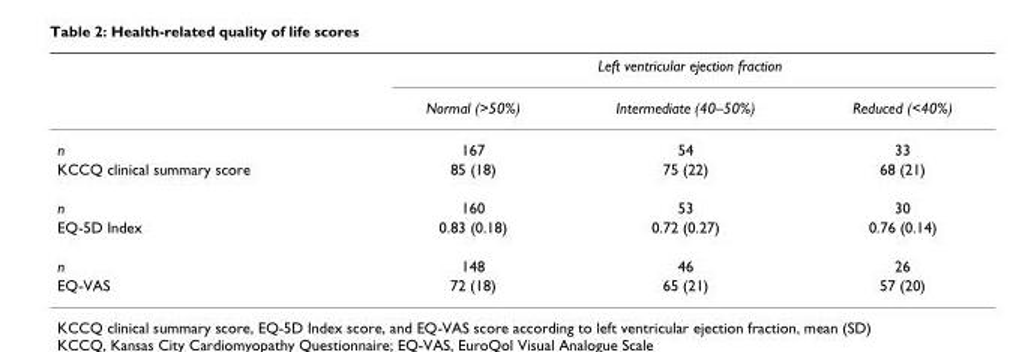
<table><thead><tr><td rowspan="2"></td><td colspan="3">Left ventricular ejection fraction</td></tr><tr><td>Normal (&gt;50%)</td><td>Intermediate (40–50%)</td><td>Reduced (&lt;40%)</td></tr></thead><tbody><tr><td>n</td><td>167</td><td>54</td><td>33</td></tr><tr><td>KCCQ clinical summary score</td><td>85 (18)</td><td>75 (22)</td><td>68 (21)</td></tr><tr><td>n</td><td>160</td><td>53</td><td>30</td></tr><tr><td>EQ-5D Index</td><td>0.83 (0.18)</td><td>0.72 (0.27)</td><td>0.76 (0.14)</td></tr><tr><td>n</td><td>148</td><td>46</td><td>26</td></tr><tr><td>EQ-VAS</td><td>72 (18)</td><td>65 (21)</td><td>57 (20)</td></tr></tbody></table>